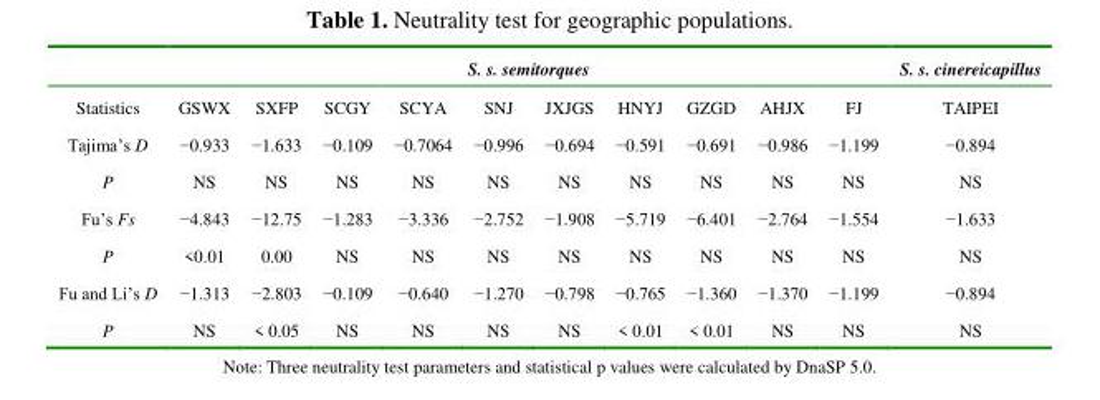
<table><thead><tr><td colspan="11">S. s. semitorques</td><td rowspan="2">S. s. cinereicapillus TAIPEI</td></tr><tr><td>Statistics</td><td>GSWX</td><td>SXFP</td><td>SCGY</td><td>SCYA</td><td>SNJ</td><td>JXJGS</td><td>HNYJ</td><td>GZGD</td><td>AHJX</td><td>FJ</td></tr></thead><tbody><tr><td>Tajima’s D</td><td>−0.933</td><td>−1.633</td><td>−0.109</td><td>−0.7064</td><td>−0.996</td><td>−0.694</td><td>−0.591</td><td>−0.691</td><td>−0.986</td><td>−1.199</td><td>−0.894</td></tr><tr><td>P</td><td>NS</td><td>NS</td><td>NS</td><td>NS</td><td>NS</td><td>NS</td><td>NS</td><td>NS</td><td>NS</td><td>NS</td><td>NS</td></tr><tr><td>Fu’s Fs</td><td>−4.843</td><td>−12.75</td><td>−1.283</td><td>−3.336</td><td>−2.752</td><td>−1.908</td><td>−5.719</td><td>−6.401</td><td>−2.764</td><td>−1.554</td><td>−1.633</td></tr><tr><td>P</td><td>&lt;0.01</td><td>0.00</td><td>NS</td><td>NS</td><td>NS</td><td>NS</td><td>NS</td><td>NS</td><td>NS</td><td>NS</td><td>NS</td></tr><tr><td>Fu and Li’s D</td><td>−1.313</td><td>−2.803</td><td>−0.109</td><td>−0.640</td><td>−1.270</td><td>−0.798</td><td>−0.765</td><td>−1.360</td><td>−1.370</td><td>−1.199</td><td>−0.894</td></tr><tr><td>P</td><td>NS</td><td>&lt; 0.05</td><td>NS</td><td>NS</td><td>NS</td><td>NS</td><td>&lt; 0.01</td><td>&lt; 0.01</td><td>NS</td><td>NS</td><td>NS</td></tr></tbody></table>